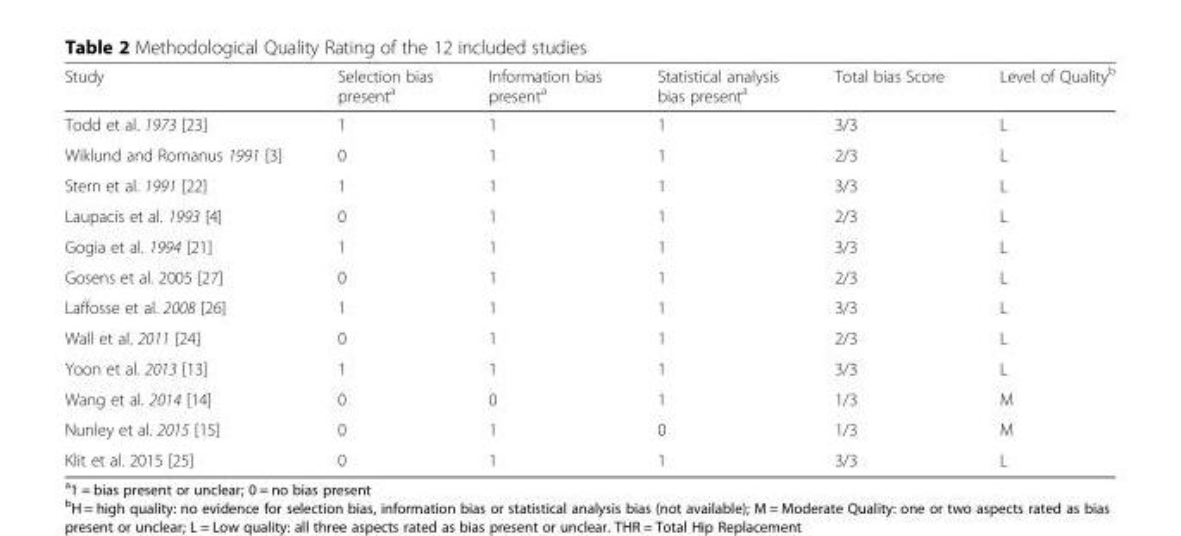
<table><thead><tr><td>Study</td><td>Selection bias present<sup>a</sup></td><td>Information bias present<sup>a</sup></td><td>Statistical analysis bias present<sup>a</sup></td><td>Total bias Score</td><td>Level of Quality<sup>b</sup></td></tr></thead><tbody><tr><td>Todd et al. 1973 [23]</td><td>1</td><td>1</td><td>1</td><td>3/3</td><td>L</td></tr><tr><td>Wiklund and Romanus 1991 [3]</td><td>0</td><td>1</td><td>1</td><td>2/3</td><td>L</td></tr><tr><td>Stern et al. 1991 [22]</td><td>1</td><td>1</td><td>1</td><td>3/3</td><td>L</td></tr><tr><td>Laupacis et al. 1993 [4]</td><td>0</td><td>1</td><td>1</td><td>2/3</td><td>L</td></tr><tr><td>Gogia et al. 1994 [21]</td><td>1</td><td>1</td><td>1</td><td>3/3</td><td>L</td></tr><tr><td>Gosens et al. 2005 [27]</td><td>0</td><td>1</td><td>1</td><td>2/3</td><td>L</td></tr><tr><td>Laffosse et al. 2008 [26]</td><td>1</td><td>1</td><td>1</td><td>3/3</td><td>L</td></tr><tr><td>Wall et al. 2011 [24]</td><td>0</td><td>1</td><td>1</td><td>2/3</td><td>L</td></tr><tr><td>Yoon et al. 2013 [13]</td><td>1</td><td>1</td><td>1</td><td>3/3</td><td>L</td></tr><tr><td>Wang et al. 2014 [14]</td><td>0</td><td>0</td><td>1</td><td>1/3</td><td>M</td></tr><tr><td>Nunley et al. 2015 [15]</td><td>0</td><td>1</td><td>0</td><td>1/3</td><td>M</td></tr><tr><td>Klit et al. 2015 [25]</td><td>0</td><td>1</td><td>1</td><td>3/3</td><td>L</td></tr></tbody></table>